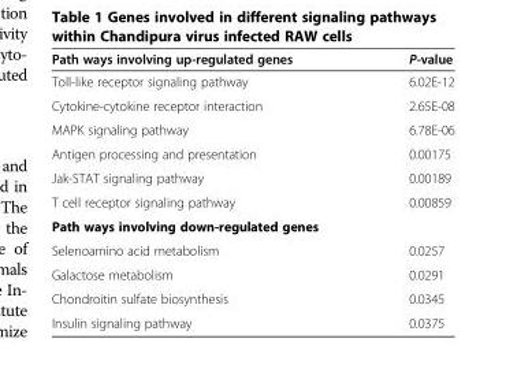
<table><thead><tr><td>Path ways involving up-regulated genes</td><td>P-value</td></tr></thead><tbody><tr><td>Toll-like receptor signaling pathway</td><td>6.02E-12</td></tr><tr><td>Cytokine-cytokine receptor interaction</td><td>2.65E-08</td></tr><tr><td>MAPK signaling pathway</td><td>6.78E-06</td></tr><tr><td>Antigen processing and presentation</td><td>0.00175</td></tr><tr><td>Jak-STAT signaling pathway</td><td>0.00189</td></tr><tr><td>T cell receptor signaling pathway</td><td>0.00859</td></tr><tr><td colspan="2">Path ways involving down-regulated genes</td></tr><tr><td>Selenoamino acid metabolism</td><td>0.0257</td></tr><tr><td>Galactose metabolism</td><td>0.0291</td></tr><tr><td>Chondroitin sulfate biosynthesis</td><td>0.0345</td></tr><tr><td>Insulin signaling pathway</td><td>0.0375</td></tr></tbody></table>